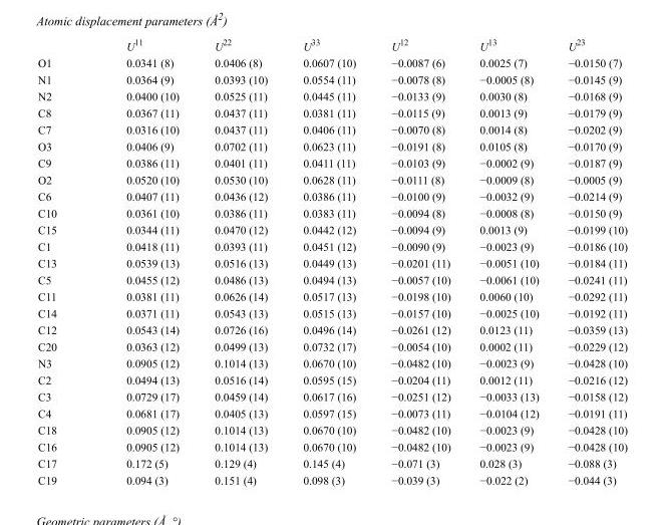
<table><thead><tr><td></td><td>U<sup>11</sup></td><td>U<sup>22</sup></td><td>U<sup>33</sup></td><td>U<sup>12</sup></td><td>U<sup>13</sup></td><td>U<sup>23</sup></td></tr></thead><tbody><tr><td>O1</td><td>0.0341 (8)</td><td>0.0406 (8)</td><td>0.0607 (10)</td><td>−0.0087 (6)</td><td>0.0025 (7)</td><td>−0.0150 (7)</td></tr><tr><td>N1</td><td>0.0364 (9)</td><td>0.0393 (10)</td><td>0.0554 (11)</td><td>−0.0078 (8)</td><td>−0.0005 (8)</td><td>−0.0145 (9)</td></tr><tr><td>N2</td><td>0.0400 (10)</td><td>0.0525 (11)</td><td>0.0445 (11)</td><td>−0.0133 (9)</td><td>0.0030 (8)</td><td>−0.0168 (9)</td></tr><tr><td>C8</td><td>0.0367 (11)</td><td>0.0437 (11)</td><td>0.0381 (11)</td><td>−0.0115 (9)</td><td>0.0013 (9)</td><td>−0.0179 (9)</td></tr><tr><td>C7</td><td>0.0316 (10)</td><td>0.0437 (11)</td><td>0.0406 (11)</td><td>−0.0070 (8)</td><td>0.0014 (8)</td><td>−0.0202 (9)</td></tr><tr><td>O3</td><td>0.0406 (9)</td><td>0.0702 (11)</td><td>0.0623 (11)</td><td>−0.0191 (8)</td><td>0.0105 (8)</td><td>−0.0170 (9)</td></tr><tr><td>C9</td><td>0.0386 (11)</td><td>0.0401 (11)</td><td>0.0411 (11)</td><td>−0.0103 (9)</td><td>−0.0002 (9)</td><td>−0.0187 (9)</td></tr><tr><td>O2</td><td>0.0520 (10)</td><td>0.0530 (10)</td><td>0.0628 (11)</td><td>−0.0111 (8)</td><td>−0.0009 (8)</td><td>−0.0005 (9)</td></tr><tr><td>C6</td><td>0.0407 (11)</td><td>0.0436 (12)</td><td>0.0386 (11)</td><td>−0.0100 (9)</td><td>−0.0032 (9)</td><td>−0.0214 (9)</td></tr><tr><td>C10</td><td>0.0361 (10)</td><td>0.0386 (11)</td><td>0.0383 (11)</td><td>−0.0094 (8)</td><td>−0.0008 (8)</td><td>−0.0150 (9)</td></tr><tr><td>C15</td><td>0.0344 (11)</td><td>0.0470 (12)</td><td>0.0442 (12)</td><td>−0.0094 (9)</td><td>0.0013 (9)</td><td>−0.0199 (10)</td></tr><tr><td>C1</td><td>0.0418 (11)</td><td>0.0393 (11)</td><td>0.0451 (12)</td><td>−0.0090 (9)</td><td>−0.0023 (9)</td><td>−0.0186 (10)</td></tr><tr><td>C13</td><td>0.0539 (13)</td><td>0.0516 (13)</td><td>0.0449 (13)</td><td>−0.0201 (11)</td><td>−0.0051 (10)</td><td>−0.0184 (11)</td></tr><tr><td>C5</td><td>0.0455 (12)</td><td>0.0486 (13)</td><td>0.0494 (13)</td><td>−0.0057 (10)</td><td>−0.0061 (10)</td><td>−0.0241 (11)</td></tr><tr><td>C11</td><td>0.0381 (11)</td><td>0.0626 (14)</td><td>0.0517 (13)</td><td>−0.0198 (10)</td><td>0.0060 (10)</td><td>−0.0292 (11)</td></tr><tr><td>C14</td><td>0.0371 (11)</td><td>0.0543 (13)</td><td>0.0515 (13)</td><td>−0.0157 (10)</td><td>−0.0025 (10)</td><td>−0.0192 (11)</td></tr><tr><td>C12</td><td>0.0543 (14)</td><td>0.0726 (16)</td><td>0.0496 (14)</td><td>−0.0261 (12)</td><td>0.0123 (11)</td><td>−0.0359 (13)</td></tr><tr><td>C20</td><td>0.0363 (12)</td><td>0.0499 (13)</td><td>0.0732 (17)</td><td>−0.0054 (10)</td><td>0.0002 (11)</td><td>−0.0229 (12)</td></tr><tr><td>N3</td><td>0.0905 (12)</td><td>0.1014 (13)</td><td>0.0670 (10)</td><td>−0.0482 (10)</td><td>−0.0023 (9)</td><td>−0.0428 (10)</td></tr><tr><td>C2</td><td>0.0494 (13)</td><td>0.0516 (14)</td><td>0.0595 (15)</td><td>−0.0204 (11)</td><td>0.0012 (11)</td><td>−0.0216 (12)</td></tr><tr><td>C3</td><td>0.0729 (17)</td><td>0.0459 (14)</td><td>0.0617 (16)</td><td>−0.0251 (12)</td><td>−0.0033 (13)</td><td>−0.0158 (12)</td></tr><tr><td>C4</td><td>0.0681 (17)</td><td>0.0405 (13)</td><td>0.0597 (15)</td><td>−0.0073 (11)</td><td>−0.0104 (12)</td><td>−0.0191 (11)</td></tr><tr><td>C18</td><td>0.0905 (12)</td><td>0.1014 (13)</td><td>0.0670 (10)</td><td>−0.0482 (10)</td><td>−0.0023 (9)</td><td>−0.0428 (10)</td></tr><tr><td>C16</td><td>0.0905 (12)</td><td>0.1014 (13)</td><td>0.0670 (10)</td><td>−0.0482 (10)</td><td>−0.0023 (9)</td><td>−0.0428 (10)</td></tr><tr><td>C17</td><td>0.172 (5)</td><td>0.129 (4)</td><td>0.145 (4)</td><td>−0.071 (3)</td><td>0.028 (3)</td><td>−0.088 (3)</td></tr><tr><td>C19</td><td>0.094 (3)</td><td>0.151 (4)</td><td>0.098 (3)</td><td>−0.039 (3)</td><td>−0.022 (2)</td><td>−0.044 (3)</td></tr></tbody></table>